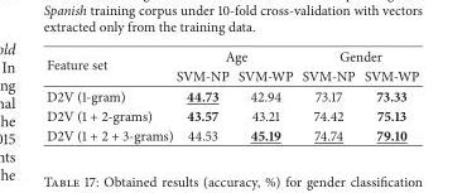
<table><thead><tr><td rowspan="2">Feature set</td><td colspan="2">Age</td><td colspan="2">Gender</td></tr><tr><td>SVM-NP</td><td>SVM-WP</td><td>SVM-NP</td><td>SVM-WP</td></tr></thead><tbody><tr><td>D2V (1-gram)</td><td>44.73</td><td>42.94</td><td>73.17</td><td>73.33</td></tr><tr><td>D2V (1 + 2-grams)</td><td>43.57</td><td>43.21</td><td>74.42</td><td>75.13</td></tr><tr><td>D2V (1 + 2 + 3-grams)</td><td>44.53</td><td>45.19</td><td>74.74</td><td>79.10</td></tr></tbody></table>